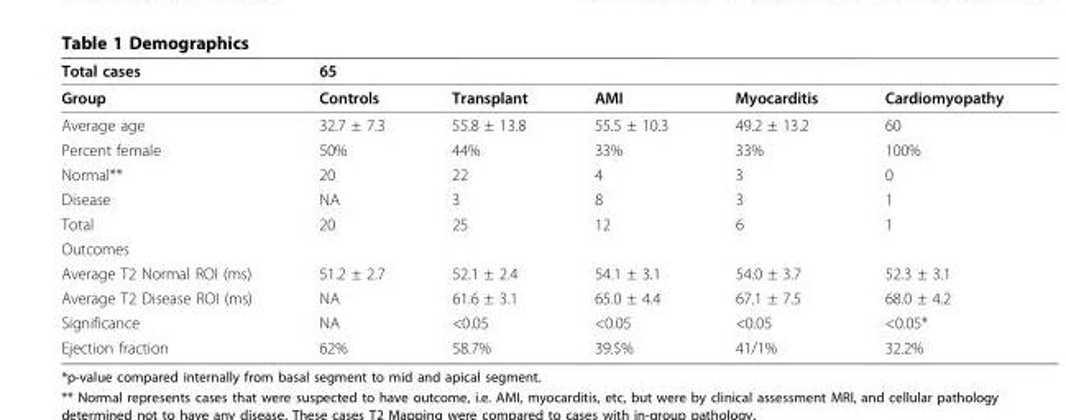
<table><thead><tr><td>Total cases</td><td>65</td><td></td><td></td><td></td><td></td></tr></thead><tbody><tr><td>Group</td><td>Controls</td><td>Transplant</td><td>AMI</td><td>Myocarditis</td><td>Cardiomyopathy</td></tr><tr><td>Average age</td><td>32.7 ± 7.3</td><td>55.8 ± 13.8</td><td>55.5 ± 10.3</td><td>49.2 ± 13.2</td><td>60</td></tr><tr><td>Percent female</td><td>50%</td><td>44%</td><td>33%</td><td>33%</td><td>100%</td></tr><tr><td>Normal**</td><td>20</td><td>22</td><td>4</td><td>3</td><td>0</td></tr><tr><td>Disease</td><td>NA</td><td>3</td><td>8</td><td>3</td><td>1</td></tr><tr><td>Total</td><td>20</td><td>25</td><td>12</td><td>6</td><td>1</td></tr><tr><td colspan="6">Outcomes</td></tr><tr><td>Average T2 Normal ROI (ms)</td><td>51.2 ± 2.7</td><td>52.1 ± 2.4</td><td>54.1 ± 3.1</td><td>54.0 ± 3.7</td><td>52.3 ± 3.1</td></tr><tr><td>Average T2 Disease ROI (ms)</td><td>NA</td><td>61.6 ± 3.1</td><td>65.0 ± 4.4</td><td>67.1 ± 7.5</td><td>68.0 ± 4.2</td></tr><tr><td>Significance</td><td>NA</td><td>&lt;0.05</td><td>&lt;0.05</td><td>&lt;0.05</td><td>&lt;0.05*</td></tr><tr><td>Ejection fraction</td><td>62%</td><td>58.7%</td><td>39.$%</td><td>41/1%</td><td>32.2%</td></tr></tbody></table>